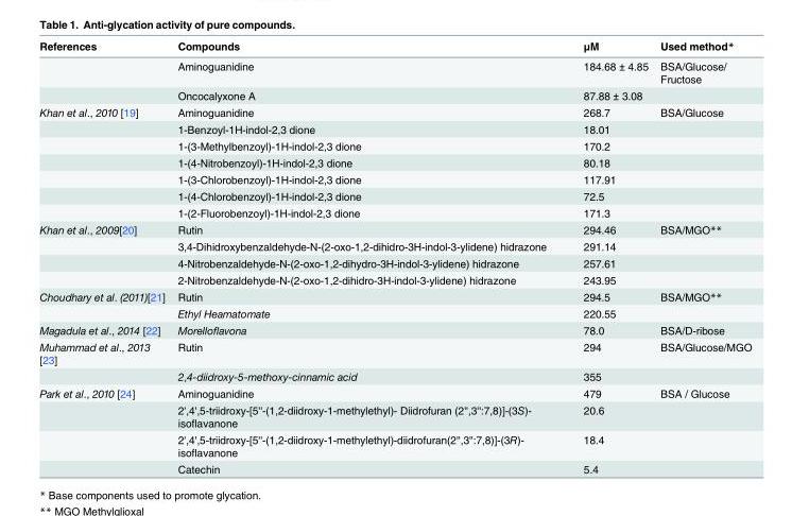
<table><thead><tr><td>References</td><td>Compounds</td><td>μM</td><td>Used method*</td></tr></thead><tbody><tr><td></td><td>Aminoguanidine</td><td>184.68 ± 4.85</td><td>BSA/Glucose/ Fructose</td></tr><tr><td></td><td>Oncocalyxone A</td><td>87.88 ± 3.08</td><td></td></tr><tr><td rowspan="7">Khan et al., 2010 [19]</td><td>Aminoguanidine</td><td>268.7</td><td>BSA/Glucose</td></tr><tr><td>1-Benzoyl-1H-indol-2,3 dione</td><td>18.01</td><td></td></tr><tr><td>1-(3-Methylbenzoyl)-1H-indol-2,3 dione</td><td>170.2</td><td></td></tr><tr><td>1-(4-Nitrobenzoyl)-1H-indol-2,3 dione</td><td>80.18</td><td></td></tr><tr><td>1-(3-Chlorobenzoyl)-1H-indol-2,3 dione</td><td>117.91</td><td></td></tr><tr><td>1-(4-Chlorobenzoyl)-1H-indol-2,3 dione</td><td>72.5</td><td></td></tr><tr><td>1-(2-Fluorobenzoyl)-1H-indol-2,3 dione</td><td>171.3</td><td></td></tr><tr><td rowspan="4">Khan et al., 2009[20]</td><td>Rutin</td><td>294.46</td><td>BSA/MGO**</td></tr><tr><td>3,4-Dihidroxybenzaldehyde-N-(2-oxo-1,2-dihidro-3H-indol-3-ylidene) hidrazone</td><td>291.14</td><td></td></tr><tr><td>4-Nitrobenzaldehyde-N-(2-oxo-1,2-dihydro-3H-indol-3-ylidene) hidrazone</td><td>257.61</td><td></td></tr><tr><td>2-Nitrobenzaldehyde-N-(2-oxo-1,2-dihidro-3H-indol-3-ylidene) hidrazone</td><td>243.95</td><td></td></tr><tr><td rowspan="2">Choudhary et al. (2011)[21]</td><td>Rutin</td><td>294.5</td><td>BSA/MGO**</td></tr><tr><td>Ethyl Heamatomate</td><td>220.55</td><td></td></tr><tr><td>Magadula et al., 2014 [22]</td><td>Morelloflavona</td><td>78.0</td><td>BSA/D-ribose</td></tr><tr><td rowspan="2">Muhammad et al., 2013 [23]</td><td>Rutin</td><td>294</td><td>BSA/Glucose/MGO</td></tr><tr><td>2,4-diidroxy-5-methoxy-cinnamic acid</td><td>355</td><td></td></tr><tr><td rowspan="4">Park et al., 2010 [24]</td><td>Aminoguanidine</td><td>479</td><td>BSA / Glucose</td></tr><tr><td>2&#x27;,4&#x27;,5-triidroxy-[5&#x27;&#x27;-(1,2-diidroxy-1-methylethyl)- Diidrofuran (2&#x27;&#x27;,3&#x27;&#x27;:7,8)]-(3S)- isoflavanone</td><td>20.6</td><td></td></tr><tr><td>2&#x27;,4&#x27;,5-triidroxy-[5&#x27;&#x27;-(1,2-diidroxy-1-methylethyl)-diidrofuran(2&#x27;&#x27;,3&#x27;&#x27;:7,8)]-(3R)- isoflavanone</td><td>18.4</td><td></td></tr><tr><td>Catechin</td><td>5.4</td><td></td></tr></tbody></table>